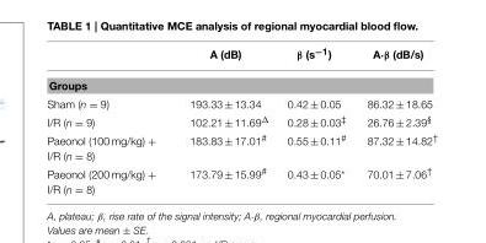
<table><thead><tr><td></td><td>A (dB)</td><td>β (s<sup>−1</sup>)</td><td>A·β (dB/s)</td></tr></thead><tbody><tr><td colspan="4">Groups</td></tr><tr><td>Sham (n = 9)</td><td>193.33 ± 13.34</td><td>0.42 ± 0.05</td><td>86.32 ± 18.65</td></tr><tr><td>I/R (n = 9)</td><td>102.21 ± 11.69<sup>Δ</sup></td><td>0.28 ± 0.03<sup>‡</sup></td><td>26.76 ± 2.39<sup>§</sup></td></tr><tr><td>Paeonol (100 mg/kg) + I/R (n = 8)</td><td>183.83 ± 17.01<sup>#</sup></td><td>0.55 ± 0.11<sup>#</sup></td><td>87.32 ± 14.82<sup>†</sup></td></tr><tr><td>Paeonol (200 mg/kg) + I/R (n = 8)</td><td>173.79 ± 15.99<sup>#</sup></td><td>0.43 ± 0.05*</td><td>70.01 ± 7.06<sup>†</sup></td></tr></tbody></table>